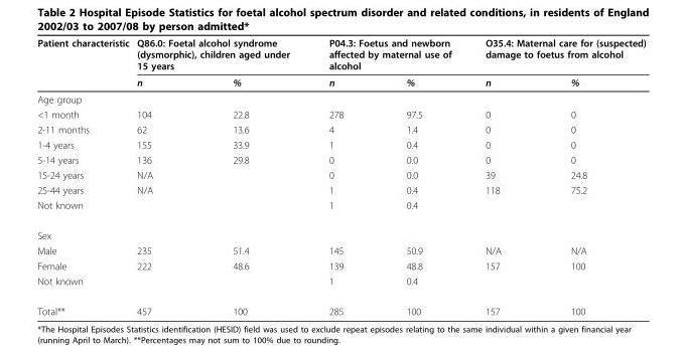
<table><thead><tr><td rowspan="2">Patient characteristic</td><td colspan="2">Q86.0: Foetal alcohol syndrome (dysmorphic), children aged under 15 years</td><td colspan="2">P04.3: Foetus and newborn affected by maternal use of alcohol</td><td colspan="2">O35.4: Maternal care for (suspected) damage to foetus from alcohol</td></tr><tr><td>n</td><td>%</td><td>n</td><td>%</td><td>n</td><td>%</td></tr></thead><tbody><tr><td colspan="7">Age group</td></tr><tr><td>&lt;1 month</td><td>104</td><td>22.8</td><td>278</td><td>97.5</td><td>0</td><td>0</td></tr><tr><td>2-11 months</td><td>62</td><td>13.6</td><td>4</td><td>1.4</td><td>0</td><td>0</td></tr><tr><td>1-4 years</td><td>155</td><td>33.9</td><td>1</td><td>0.4</td><td>0</td><td>0</td></tr><tr><td>5-14 years</td><td>136</td><td>29.8</td><td>0</td><td>0.0</td><td>0</td><td>0</td></tr><tr><td>15-24 years</td><td>N/A</td><td></td><td>0</td><td>0.0</td><td>39</td><td>24.8</td></tr><tr><td>25-44 years</td><td>N/A</td><td></td><td>1</td><td>0.4</td><td>118</td><td>75.2</td></tr><tr><td>Not known</td><td></td><td></td><td>1</td><td>0.4</td><td></td><td></td></tr><tr><td colspan="7">Sex</td></tr><tr><td>Male</td><td>235</td><td>51.4</td><td>145</td><td>50.9</td><td>N/A</td><td>N/A</td></tr><tr><td>Female</td><td>222</td><td>48.6</td><td>139</td><td>48.8</td><td>157</td><td>100</td></tr><tr><td>Not known</td><td></td><td></td><td>1</td><td>0.4</td><td></td><td></td></tr><tr><td>Total**</td><td>457</td><td>100</td><td>285</td><td>100</td><td>157</td><td>100</td></tr></tbody></table>